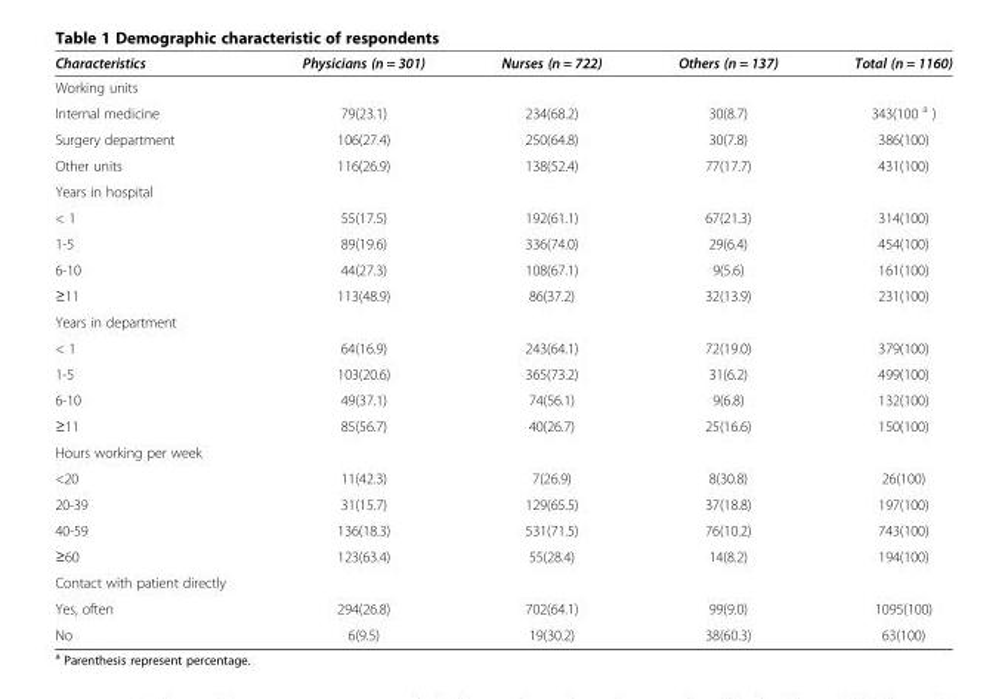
<table><thead><tr><td>Characteristics</td><td>Physicians (n = 301)</td><td>Nurses (n = 722)</td><td>Others (n = 137)</td><td>Total (n = 1160)</td></tr></thead><tbody><tr><td colspan="5">Working units</td></tr><tr><td>Internal medicine</td><td>79(23.1)</td><td>234(68.2)</td><td>30(8.7)</td><td>343(100 <sup>a</sup> )</td></tr><tr><td>Surgery department</td><td>106(27.4)</td><td>250(64.8)</td><td>30(7.8)</td><td>386(100)</td></tr><tr><td>Other units</td><td>116(26.9)</td><td>138(52.4)</td><td>77(17.7)</td><td>431(100)</td></tr><tr><td colspan="5">Years in hospital</td></tr><tr><td>&lt; 1</td><td>55(17.5)</td><td>192(61.1)</td><td>67(21.3)</td><td>314(100)</td></tr><tr><td>1-5</td><td>89(19.6)</td><td>336(74.0)</td><td>29(6.4)</td><td>454(100)</td></tr><tr><td>6-10</td><td>44(27.3)</td><td>108(67.1)</td><td>9(5.6)</td><td>161(100)</td></tr><tr><td>≥11</td><td>113(48.9)</td><td>86(37.2)</td><td>32(13.9)</td><td>231(100)</td></tr><tr><td colspan="5">Years in department</td></tr><tr><td>&lt; 1</td><td>64(16.9)</td><td>243(64.1)</td><td>72(19.0)</td><td>379(100)</td></tr><tr><td>1-5</td><td>103(20.6)</td><td>365(73.2)</td><td>31(6.2)</td><td>499(100)</td></tr><tr><td>6-10</td><td>49(37.1)</td><td>74(56.1)</td><td>9(6.8)</td><td>132(100)</td></tr><tr><td>≥11</td><td>85(56.7)</td><td>40(26.7)</td><td>25(16.6)</td><td>150(100)</td></tr><tr><td colspan="5">Hours working per week</td></tr><tr><td>&lt;20</td><td>11(42.3)</td><td>7(26.9)</td><td>8(30.8)</td><td>26(100)</td></tr><tr><td>20-39</td><td>31(15.7)</td><td>129(65.5)</td><td>37(18.8)</td><td>197(100)</td></tr><tr><td>40-59</td><td>136(18.3)</td><td>531(71.5)</td><td>76(10.2)</td><td>743(100)</td></tr><tr><td>≥60</td><td>123(63.4)</td><td>55(28.4)</td><td>14(8.2)</td><td>194(100)</td></tr><tr><td colspan="5">Contact with patient directly</td></tr><tr><td>Yes, often</td><td>294(26.8)</td><td>702(64.1)</td><td>99(9.0)</td><td>1095(100)</td></tr><tr><td>No</td><td>6(9.5)</td><td>19(30.2)</td><td>38(60.3)</td><td>63(100)</td></tr></tbody></table>